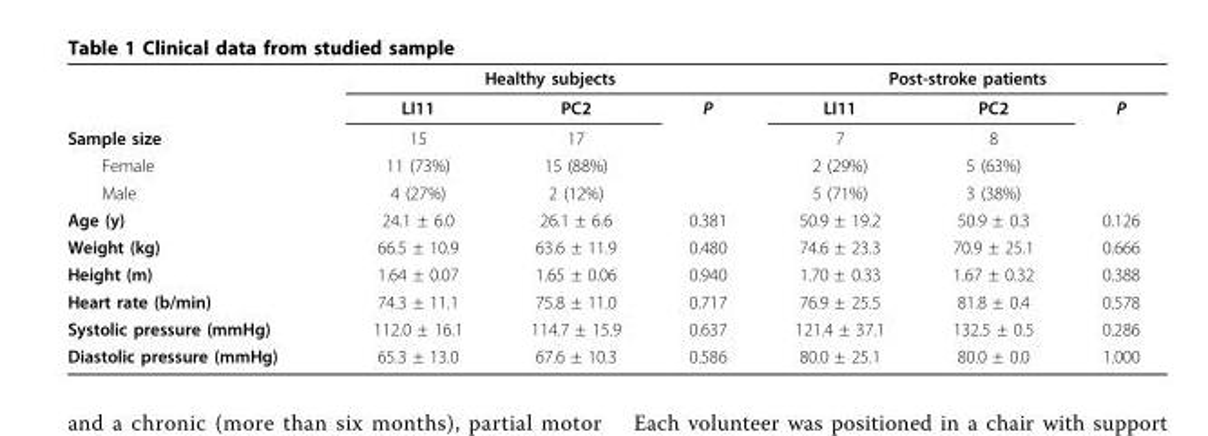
<table><thead><tr><td rowspan="2"></td><td colspan="3">Healthy subjects</td><td colspan="3">Post-stroke patients</td></tr><tr><td>LI11</td><td>PC2</td><td>P</td><td>LI11</td><td>PC2</td><td>P</td></tr></thead><tbody><tr><td>Sample size</td><td>15</td><td>17</td><td></td><td>7</td><td>8</td><td></td></tr><tr><td>Female</td><td>11 (73%)</td><td>15 (88%)</td><td></td><td>2 (29%)</td><td>5 (63%)</td><td></td></tr><tr><td>Male</td><td>4 (27%)</td><td>2 (12%)</td><td></td><td>5 (71%)</td><td>3 (38%)</td><td></td></tr><tr><td>Age (y)</td><td>24.1 ± 6.0</td><td>26.1 ± 6.6</td><td>0.381</td><td>50.9 ± 19.2</td><td>50.9 ± 0.3</td><td>0.126</td></tr><tr><td>Weight (kg)</td><td>66.5 ± 10.9</td><td>63.6 ± 11.9</td><td>0.480</td><td>74.6 ± 23.3</td><td>70.9 ± 25.1</td><td>0.666</td></tr><tr><td>Height (m)</td><td>1.64 ± 0.07</td><td>1.65 ± 0.06</td><td>0.940</td><td>1.70 ± 0.33</td><td>1.67 ± 0.32</td><td>0.388</td></tr><tr><td>Heart rate (b/min)</td><td>74.3 ± 11.1</td><td>75.8 ± 11.0</td><td>0.717</td><td>76.9 ± 25.5</td><td>81.8 ± 0.4</td><td>0.578</td></tr><tr><td>Systolic pressure (mmHg)</td><td>112.0 ± 16.1</td><td>114.7 ± 15.9</td><td>0.637</td><td>121.4 ± 37.1</td><td>132.5 ± 0.5</td><td>0.286</td></tr><tr><td>Diastolic pressure (mmHg)</td><td>65.3 ± 13.0</td><td>67.6 ± 10.3</td><td>0.586</td><td>80.0 ± 25.1</td><td>80.0 ± 0.0</td><td>1.000</td></tr></tbody></table>